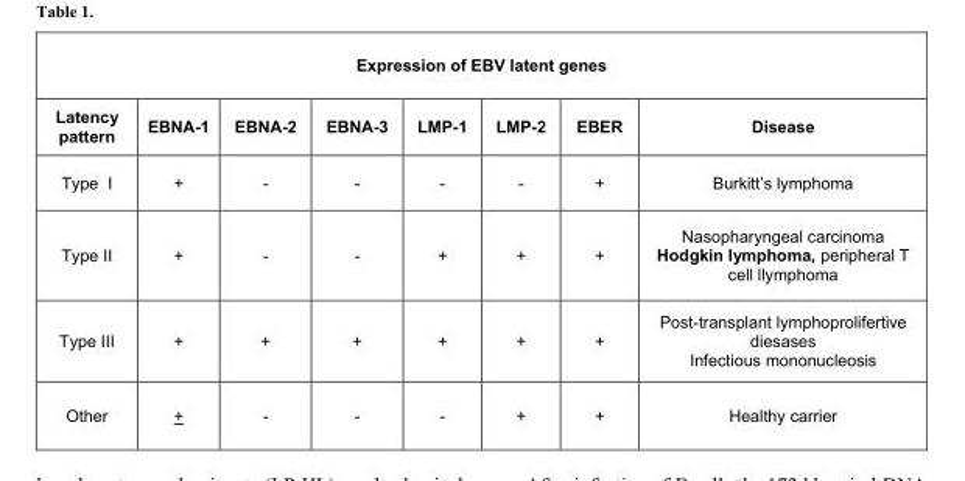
<table><thead><tr><td colspan="8">Expression of EBV latent genes</td></tr><tr><td>Latency pattern</td><td>EBNA-1</td><td>EBNA-2</td><td>EBNA-3</td><td>LMP-1</td><td>LMP-2</td><td>EBER</td><td>Disease</td></tr></thead><tbody><tr><td>Type I</td><td>+</td><td>-</td><td>-</td><td>-</td><td>-</td><td>+</td><td>Burkitt’s lymphoma</td></tr><tr><td>Type II</td><td>+</td><td>-</td><td>-</td><td>+</td><td>+</td><td>+</td><td>Nasopharyngeal carcinoma Hodgkin lymphoma, peripheral T cell llymphoma</td></tr><tr><td>Type III</td><td>+</td><td>+</td><td>+</td><td>+</td><td>+</td><td>+</td><td>Post-transplant lymphoprolifertive diesases Infectious mononucleosis</td></tr><tr><td>Other</td><td>+</td><td>-</td><td>-</td><td>-</td><td>+</td><td>+</td><td>Healthy carrier</td></tr></tbody></table>